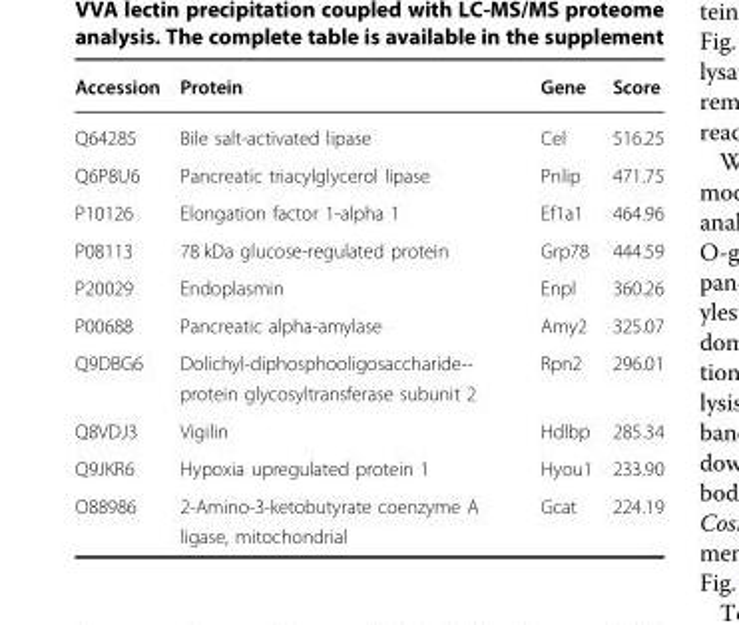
<table><thead><tr><td>Accession</td><td>Protein</td><td>Gene</td><td>Score</td></tr></thead><tbody><tr><td>Q64285</td><td>Bile salt-activated lipase</td><td>Cel</td><td>516.25</td></tr><tr><td>Q6P8U6</td><td>Pancreatic triacylglycerol lipase</td><td>Pnlip</td><td>471.75</td></tr><tr><td>P10126</td><td>Elongation factor 1-alpha 1</td><td>Ef1a1</td><td>464.96</td></tr><tr><td>P08113</td><td>78 kDa glucose-regulated protein</td><td>Grp78</td><td>444.59</td></tr><tr><td>P20029</td><td>Endoplasmin</td><td>Enpl</td><td>360.26</td></tr><tr><td>P00688</td><td>Pancreatic alpha-amylase</td><td>Amy2</td><td>325.07</td></tr><tr><td>Q9DBG6</td><td>Dolichyl-diphosphooligosaccharide-- protein glycosyltransferase subunit 2</td><td>Rpn2</td><td>296.01</td></tr><tr><td>Q8VDJ3</td><td>Vigilin</td><td>Hdlbp</td><td>285.34</td></tr><tr><td>Q9JKR6</td><td>Hypoxia upregulated protein 1</td><td>Hyou1</td><td>233.90</td></tr><tr><td>O88986</td><td>2-Amino-3-ketobutyrate coenzyme A ligase, mitochondrial</td><td>Gcat</td><td>224.19</td></tr></tbody></table>